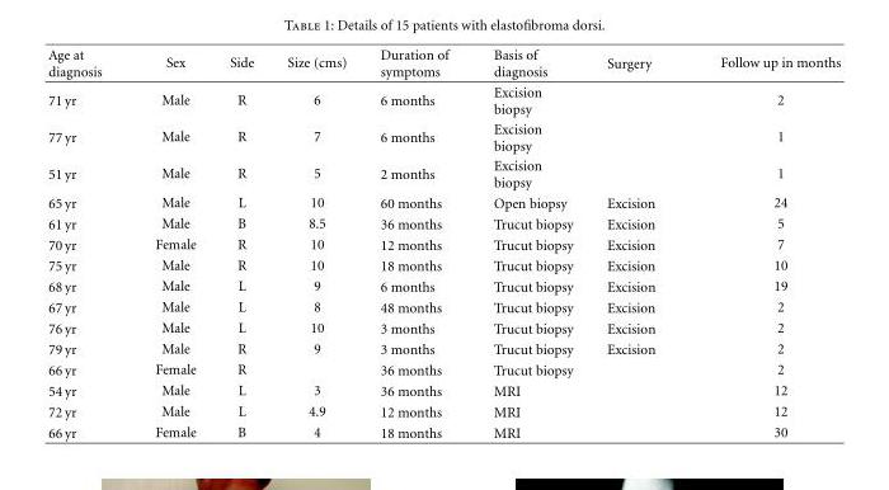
<table><thead><tr><td>Age at diagnosis</td><td>Sex</td><td>Side</td><td>Size (cms)</td><td>Duration of symptoms</td><td>Basis of diagnosis</td><td>Surgery</td><td>Follow up in months</td></tr></thead><tbody><tr><td>71 yr</td><td>Male</td><td>R</td><td>6</td><td>6 months</td><td>Excision biopsy</td><td></td><td>2</td></tr><tr><td>77 yr</td><td>Male</td><td>R</td><td>7</td><td>6 months</td><td>Excision biopsy</td><td></td><td>1</td></tr><tr><td>51 yr</td><td>Male</td><td>R</td><td>5</td><td>2 months</td><td>Excision biopsy</td><td></td><td>1</td></tr><tr><td>65 yr</td><td>Male</td><td>L</td><td>10</td><td>60 months</td><td>Open biopsy</td><td>Excision</td><td>24</td></tr><tr><td>61 yr</td><td>Male</td><td>B</td><td>8.5</td><td>36 months</td><td>Trucut biopsy</td><td>Excision</td><td>5</td></tr><tr><td>70 yr</td><td>Female</td><td>R</td><td>10</td><td>12 months</td><td>Trucut biopsy</td><td>Excision</td><td>7</td></tr><tr><td>75 yr</td><td>Male</td><td>R</td><td>10</td><td>18 months</td><td>Trucut biopsy</td><td>Excision</td><td>10</td></tr><tr><td>68 yr</td><td>Male</td><td>L</td><td>9</td><td>6 months</td><td>Trucut biopsy</td><td>Excision</td><td>19</td></tr><tr><td>67 yr</td><td>Male</td><td>L</td><td>8</td><td>48 months</td><td>Trucut biopsy</td><td>Excision</td><td>2</td></tr><tr><td>76 yr</td><td>Male</td><td>L</td><td>10</td><td>3 months</td><td>Trucut biopsy</td><td>Excision</td><td>2</td></tr><tr><td>79 yr</td><td>Male</td><td>R</td><td>9</td><td>3 months</td><td>Trucut biopsy</td><td>Excision</td><td>2</td></tr><tr><td>66 yr</td><td>Female</td><td>R</td><td></td><td>36 months</td><td>Trucut biopsy</td><td></td><td>2</td></tr><tr><td>54 yr</td><td>Male</td><td>L</td><td>3</td><td>36 months</td><td>MRI</td><td></td><td>12</td></tr><tr><td>72 yr</td><td>Male</td><td>L</td><td>4.9</td><td>12 months</td><td>MRI</td><td></td><td>12</td></tr><tr><td>66 yr</td><td>Female</td><td>B</td><td>4</td><td>18 months</td><td>MRI</td><td></td><td>30</td></tr></tbody></table>